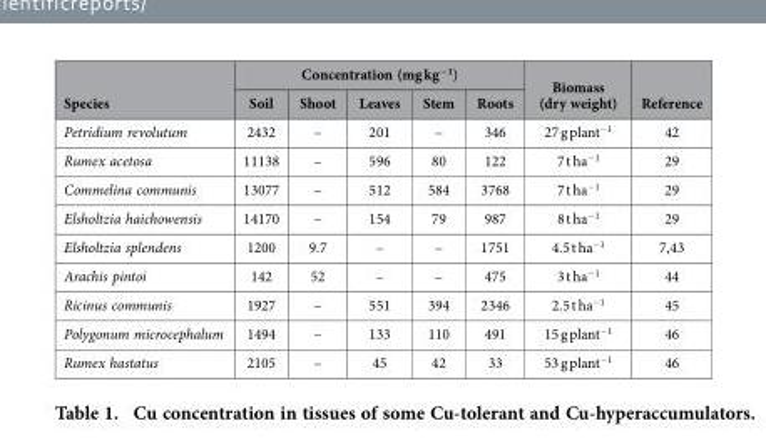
<table><thead><tr><td rowspan="2">Species</td><td colspan="5">Concentration (mg kg<sup>−1</sup>)</td><td rowspan="2">Biomass (dry weight)</td><td rowspan="2">Reference</td></tr><tr><td>Soil</td><td>Shoot</td><td>Leaves</td><td>Stem</td><td>Roots</td></tr></thead><tbody><tr><td>Petridium revolutum</td><td>2432</td><td>–</td><td>201</td><td>–</td><td>346</td><td>27 g plant<sup>−1</sup></td><td>42</td></tr><tr><td>Rumex acetosa</td><td>11138</td><td>–</td><td>596</td><td>80</td><td>122</td><td>7 t ha<sup>−1</sup></td><td>29</td></tr><tr><td>Commelina communis</td><td>13077</td><td>–</td><td>512</td><td>584</td><td>3768</td><td>7 t ha<sup>−1</sup></td><td>29</td></tr><tr><td>Elsholtzia haichowensis</td><td>14170</td><td>–</td><td>154</td><td>79</td><td>987</td><td>8 t ha<sup>−1</sup></td><td>29</td></tr><tr><td>Elsholtzia splendens</td><td>1200</td><td>9.7</td><td>–</td><td>–</td><td>1751</td><td>4.5 t ha<sup>−1</sup></td><td>7,43</td></tr><tr><td>Arachis pintoi</td><td>142</td><td>52</td><td>–</td><td>–</td><td>475</td><td>3 t ha<sup>−1</sup></td><td>44</td></tr><tr><td>Ricinus communis</td><td>1927</td><td>–</td><td>551</td><td>394</td><td>2346</td><td>2.5 t ha<sup>−1</sup></td><td>45</td></tr><tr><td>Polygonum microcephalum</td><td>1494</td><td>–</td><td>133</td><td>110</td><td>491</td><td>15 g plant<sup>−1</sup></td><td>46</td></tr><tr><td>Rumex hastatus</td><td>2105</td><td>–</td><td>45</td><td>42</td><td>33</td><td>53 g plant<sup>−1</sup></td><td>46</td></tr></tbody></table>